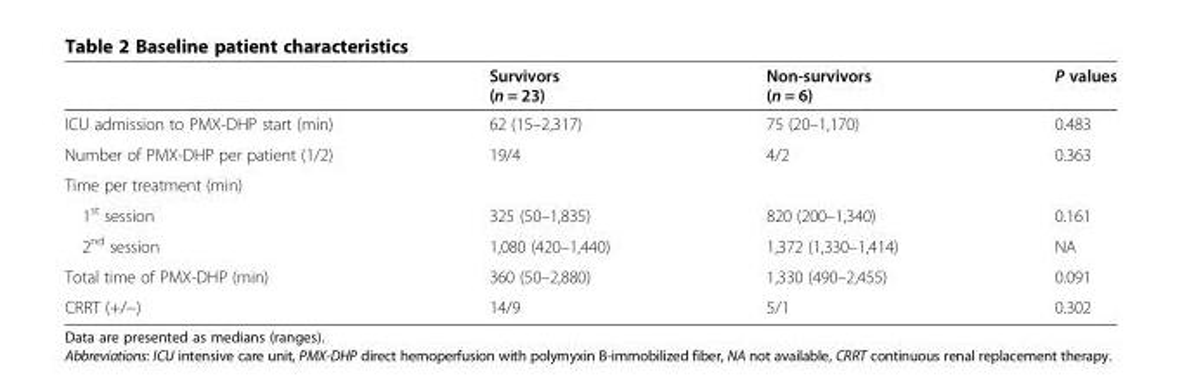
<table><thead><tr><td></td><td>Survivors (n = 23)</td><td>Non-survivors (n = 6)</td><td>P values</td></tr></thead><tbody><tr><td>ICU admission to PMX-DHP start (min)</td><td>62 (15–2,317)</td><td>75 (20–1,170)</td><td>0.483</td></tr><tr><td>Number of PMX-DHP per patient (1/2)</td><td>19/4</td><td>4/2</td><td>0.363</td></tr><tr><td colspan="4">Time per treatment (min)</td></tr><tr><td>1<sup>st</sup> session</td><td>325 (50–1,835)</td><td>820 (200–1,340)</td><td>0.161</td></tr><tr><td>2<sup>nd</sup> session</td><td>1,080 (420–1,440)</td><td>1,372 (1,330–1,414)</td><td>NA</td></tr><tr><td>Total time of PMX-DHP (min)</td><td>360 (50–2,880)</td><td>1,330 (490–2,455)</td><td>0.091</td></tr><tr><td>CRRT (+/−)</td><td>14/9</td><td>5/1</td><td>0.302</td></tr></tbody></table>